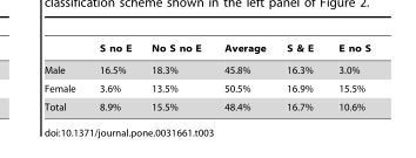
<table><thead><tr><td></td><td>S no E</td><td>No S no E</td><td>Average</td><td>S &amp; E</td><td>E no S</td></tr></thead><tbody><tr><td>Male</td><td>16.5%</td><td>18.3%</td><td>45.8%</td><td>16.3%</td><td>3.0%</td></tr><tr><td>Female</td><td>3.6%</td><td>13.5%</td><td>50.5%</td><td>16.9%</td><td>15.5%</td></tr><tr><td>Total</td><td>8.9%</td><td>15.5%</td><td>48.4%</td><td>16.7%</td><td>10.6%</td></tr></tbody></table>